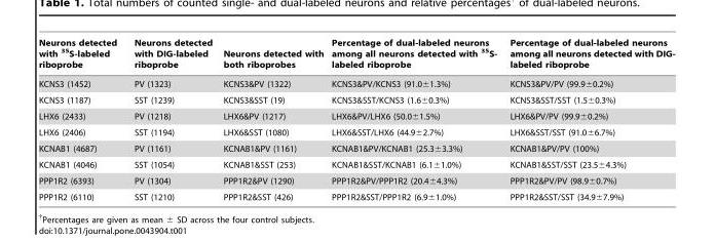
<table><thead><tr><td>Neurons detected with <sup>35</sup>S-labeled riboprobe</td><td>Neurons detected with DIG-labeled riboprobe</td><td>Neurons detected with both riboprobes</td><td>Percentage of dual-labeled neurons among all neurons detected with <sup>35</sup>S- labeled riboprobe</td><td>Percentage of dual-labeled neurons among all neurons detected with DIG- labeled riboprobe</td></tr></thead><tbody><tr><td>KCNS3 (1452)</td><td>PV (1323)</td><td>KCNS3&amp;PV (1322)</td><td>KCNS3&amp;PV/KCNS3 (91.0±1.3%)</td><td>KCNS3&amp;PV/PV (99.9±0.2%)</td></tr><tr><td>KCNS3 (1187)</td><td>SST (1239)</td><td>KCNS3&amp;SST (19)</td><td>KCNS3&amp;SST/KCNS3 (1.6±0.3%)</td><td>KCNS3&amp;SST/SST (1.5±0.3%)</td></tr><tr><td>LHX6 (2433)</td><td>PV (1218)</td><td>LHX6&amp;PV (1217)</td><td>LHX6&amp;PV/LHX6 (50.0±1.5%)</td><td>LHX6&amp;PV/PV (99.9±0.2%)</td></tr><tr><td>LHX6 (2406)</td><td>SST (1194)</td><td>LHX6&amp;SST (1080)</td><td>LHX6&amp;SST/LHX6 (44.9±2.7%)</td><td>LHX6&amp;SST/SST (91.0±6.7%)</td></tr><tr><td>KCNAB1 (4687)</td><td>PV (1161)</td><td>KCNAB1&amp;PV (1161)</td><td>KCNAB1&amp;PV/KCNAB1 (25.3±3.3%)</td><td>KCNAB1&amp;PV/PV (100%)</td></tr><tr><td>KCNAB1 (4046)</td><td>SST (1054)</td><td>KCNAB1&amp;SST (253)</td><td>KCNAB1&amp;SST/KCNAB1 (6.1±1.0%)</td><td>KCNAB1&amp;SST/SST (23.5±4.3%)</td></tr><tr><td>PPP1R2 (6393)</td><td>PV (1304)</td><td>PPP1R2&amp;PV (1290)</td><td>PPP1R2&amp;PV/PPP1R2 (20.4±4.3%)</td><td>PPP1R2&amp;PV/PV (98.9±0.7%)</td></tr><tr><td>PPP1R2 (6110)</td><td>SST (1210)</td><td>PPP1R2&amp;SST (426)</td><td>PPP1R2&amp;SST/PPP1R2 (6.9±1.0%)</td><td>PPP1R2&amp;SST/SST (34.9±7.9%)</td></tr></tbody></table>